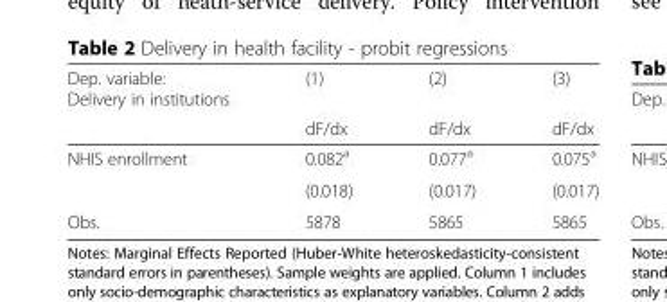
<table><thead><tr><td rowspan="2">Dep. variable: Delivery in institutions</td><td rowspan="2">(1) dF/dx</td><td rowspan="2">(2) dF/dx</td><td rowspan="2">(3) dF/dx</td></tr><tr></tr></thead><tbody><tr><td rowspan="2">NHIS enrollment</td><td>0.082<sup>a</sup></td><td>0.077<sup>a</sup></td><td>0.075<sup>a</sup></td></tr><tr><td>(0.018)</td><td>(0.017)</td><td>(0.017)</td></tr><tr><td>Obs.</td><td>5878</td><td>5865</td><td>5865</td></tr></tbody></table>